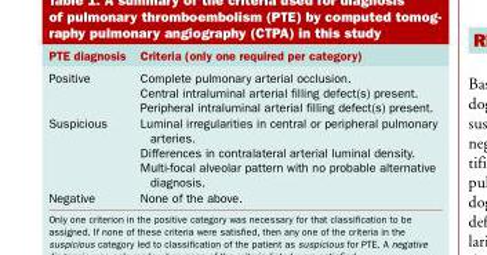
<table><thead><tr><td>PTE diagnosis</td><td>Criteria (only one required per category)</td></tr></thead><tbody><tr><td rowspan="3">Positive</td><td>Complete pulmonary arterial occlusion.</td></tr><tr><td>Central intraluminal arterial filling defect(s) present.</td></tr><tr><td>Peripheral intraluminal arterial filling defect(s) present.</td></tr><tr><td rowspan="3">Suspicious</td><td>Luminal irregularities in central or peripheral pulmonary arteries.</td></tr><tr><td>Differences in contralateral arterial luminal density.</td></tr><tr><td>Multi-focal alveolar pattern with no probable alternative diagnosis.</td></tr><tr><td>Negative</td><td>None of the above.</td></tr></tbody></table>